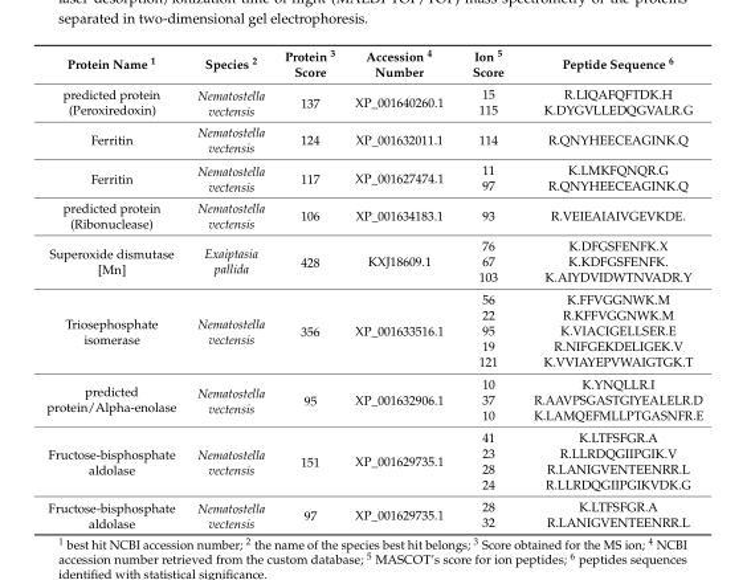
<table><thead><tr><td>Protein Name <sup>1</sup></td><td>Species <sup>2</sup></td><td>Protein <sup>3</sup> Score</td><td>Accession <sup>4</sup> Number</td><td>Ion <sup>5</sup> Score</td><td>Peptide Sequence <sup>6</sup></td></tr></thead><tbody><tr><td rowspan="2">predicted protein (Peroxiredoxin)</td><td rowspan="2">Nematostella vectensis</td><td rowspan="2">137</td><td rowspan="2">XP_001640260.1</td><td>15</td><td>R.LIQAFQFTDK.H</td></tr><tr><td>115</td><td>K.DYGVLLEDQGVALR.G</td></tr><tr><td>Ferritin</td><td>Nematostella vectensis</td><td>124</td><td>XP_001632011.1</td><td>114</td><td>R.QNYHEECEAGINK.Q</td></tr><tr><td rowspan="2">Ferritin</td><td rowspan="2">Nematostella vectensis</td><td rowspan="2">117</td><td rowspan="2">XP_001627474.1</td><td>11</td><td>K.LMKFQNQR.G</td></tr><tr><td>97</td><td>R.QNYHEECEAGINK.Q</td></tr><tr><td>predicted protein (Ribonuclease)</td><td>Nematostella vectensis</td><td>106</td><td>XP_001634183.1</td><td>93</td><td>R.VEIEAIAIVGEVKDE.</td></tr><tr><td rowspan="3">Superoxide dismutase [Mn]</td><td rowspan="3">Exaiptasia pallida</td><td rowspan="3">428</td><td rowspan="3">KXJ18609.1</td><td>76</td><td>K.DFGSFENFK.X</td></tr><tr><td>67</td><td>K.KDFGSFENFK.</td></tr><tr><td>103</td><td>K.AIYDVIDWTNVADR.Y</td></tr><tr><td rowspan="5">Triosephosphate isomerase</td><td rowspan="5">Nematostella vectensis</td><td rowspan="5">356</td><td rowspan="5">XP_001633516.1</td><td>56</td><td>K.FFVGGNWK.M</td></tr><tr><td>22</td><td>R.KFFVGGNWK.M</td></tr><tr><td>95</td><td>K.VIACIGELLSER.E</td></tr><tr><td>19</td><td>R.NIFGEKDELIGEK.V</td></tr><tr><td>121</td><td>K.VVIAYEPVWAIGTGK.T</td></tr><tr><td rowspan="3">predicted protein/Alpha-enolase</td><td rowspan="3">Nematostella vectensis</td><td rowspan="3">95</td><td rowspan="3">XP_001632906.1</td><td>10</td><td>K.YNQLLR.I</td></tr><tr><td>37</td><td>R.AAVPSGASTGIYEALELR.D</td></tr><tr><td>10</td><td>K.LAMQEFMLLPTGASNFR.E</td></tr><tr><td rowspan="4">Fructose-bisphosphate aldolase</td><td rowspan="4">Nematostella vectensis</td><td rowspan="4">151</td><td rowspan="4">XP_001629735.1</td><td>41</td><td>K.LTFSFGR.A</td></tr><tr><td>23</td><td>R.LLRDQGIIPGIK.V</td></tr><tr><td>28</td><td>R.LANIGVENTEENRR.L</td></tr><tr><td>24</td><td>R.LLRDQGIIPGIKVDK.G</td></tr><tr><td rowspan="2">Fructose-bisphosphate aldolase</td><td rowspan="2">Nematostella vectensis</td><td rowspan="2">97</td><td rowspan="2">XP_001629735.1</td><td>28</td><td>K.LTFSFGR.A</td></tr><tr><td>32</td><td>R.LANIGVENTEENRR.L</td></tr></tbody></table>